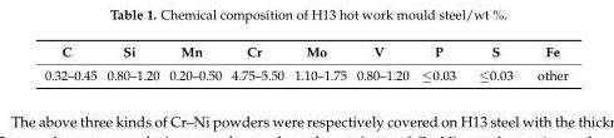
<table><thead><tr><td>C</td><td>Si</td><td>Mn</td><td>Cr</td><td>Mo</td><td>V</td><td>P</td><td>S</td><td>Fe</td></tr></thead><tbody><tr><td>0.32–0.45</td><td>0.80–1.20</td><td>0.20–0.50</td><td>4.75–5.50</td><td>1.10–1.75</td><td>0.80–1.20</td><td>≤0.03</td><td>≤0.03</td><td>other</td></tr></tbody></table>